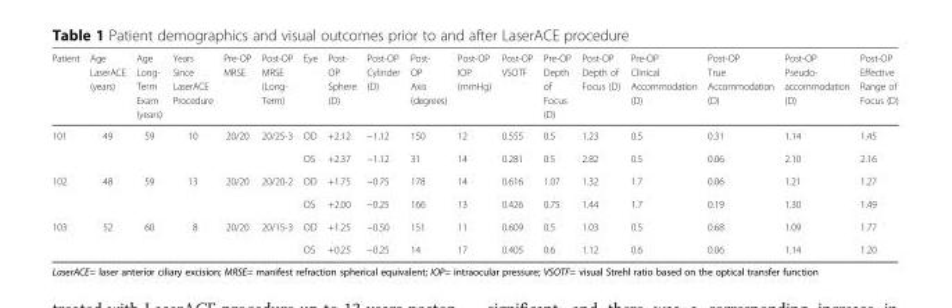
<table><thead><tr><td>Patient</td><td>Age LaserACE (years)</td><td>Age Long- Term Exam (years)</td><td>Years Since LaserACE Procedure</td><td>Pre-OP MRSE</td><td>Post-OP MRSE (Long- Term)</td><td>Eye</td><td>Post- OP Sphere (D)</td><td>Post-OP Cylinder (D)</td><td>Post- OP Axis (degrees)</td><td>Post-OP IOP (mmHg)</td><td>Post-OP VSOTF</td><td>Pre-OP Depth of Focus (D)</td><td>Post-OP Depth of Focus (D)</td><td>Pre-OP Clinical Accommodation (D)</td><td>Post-OP True Accommodation (D)</td><td>Post-OP Pseudo- accommodation (D)</td><td>Post-OP Effective Range of Focus (D)</td></tr></thead><tbody><tr><td rowspan="2">101</td><td rowspan="2">49</td><td rowspan="2">59</td><td rowspan="2">10</td><td rowspan="2">20/20</td><td rowspan="2">20/25-3</td><td>OD</td><td>+2.12</td><td>−1.12</td><td>150</td><td>12</td><td>0.555</td><td>0.5</td><td>1.23</td><td>0.5</td><td>0.31</td><td>1.14</td><td>1.45</td></tr><tr><td>OS</td><td>+2.37</td><td>−1.12</td><td>31</td><td>14</td><td>0.281</td><td>0.5</td><td>2.82</td><td>0.5</td><td>0.06</td><td>2.10</td><td>2.16</td></tr><tr><td rowspan="2">102</td><td rowspan="2">48</td><td rowspan="2">59</td><td rowspan="2">13</td><td rowspan="2">20/20</td><td rowspan="2">20/20-2</td><td>OD</td><td>+1.75</td><td>−0.75</td><td>178</td><td>14</td><td>0.616</td><td>1.07</td><td>1.32</td><td>1.7</td><td>0.06</td><td>1.21</td><td>1.27</td></tr><tr><td>OS</td><td>+2.00</td><td>−0.25</td><td>166</td><td>13</td><td>0.426</td><td>0.75</td><td>1.44</td><td>1.7</td><td>0.19</td><td>1.30</td><td>1.49</td></tr><tr><td rowspan="2">103</td><td rowspan="2">52</td><td rowspan="2">60</td><td rowspan="2">8</td><td rowspan="2">20/20</td><td rowspan="2">20/15-3</td><td>OD</td><td>+1.25</td><td>−0.50</td><td>151</td><td>11</td><td>0.609</td><td>0.5</td><td>1.03</td><td>0.5</td><td>0.68</td><td>1.09</td><td>1.77</td></tr><tr><td>OS</td><td>+0.25</td><td>−0.25</td><td>14</td><td>17</td><td>0.405</td><td>0.6</td><td>1.12</td><td>0.6</td><td>0.06</td><td>1.14</td><td>1.20</td></tr></tbody></table>